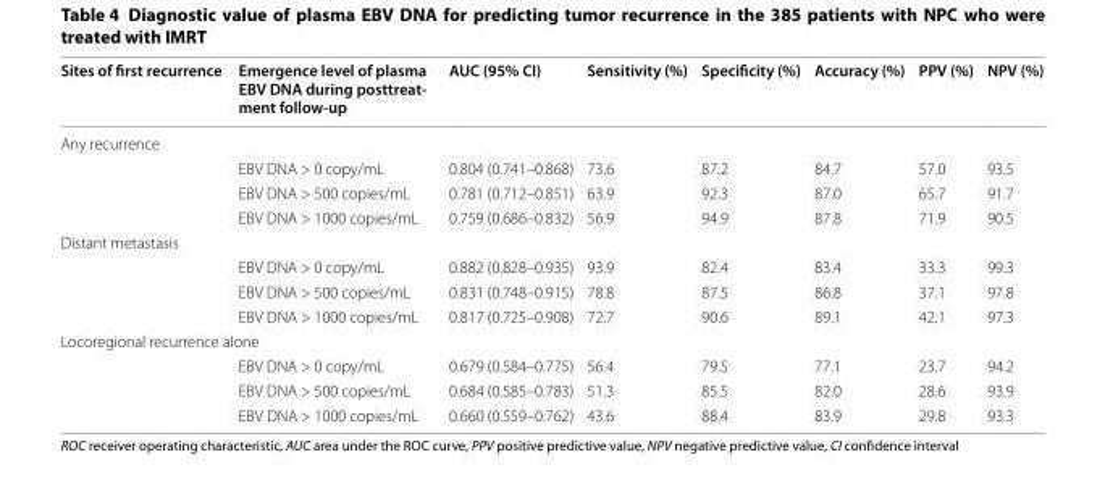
<table><thead><tr><td>Sites of first recurrence</td><td>Emergence level of plasma EBV DNA during posttreat‑ ment follow‑up</td><td>AUC (95% CI)</td><td>Sensitivity (%)</td><td>Specificity (%)</td><td>Accuracy (%)</td><td>PPV (%)</td><td>NPV (%)</td></tr></thead><tbody><tr><td colspan="8">Any recurrence</td></tr><tr><td></td><td>EBV DNA &gt; 0 copy/mL</td><td>0.804 (0.741–0.868)</td><td>73.6</td><td>87.2</td><td>84.7</td><td>57.0</td><td>93.5</td></tr><tr><td></td><td>EBV DNA &gt; 500 copies/mL</td><td>0.781 (0.712–0.851)</td><td>63.9</td><td>92.3</td><td>87.0</td><td>65.7</td><td>91.7</td></tr><tr><td></td><td>EBV DNA &gt; 1000 copies/mL</td><td>0.759 (0.686–0.832)</td><td>56.9</td><td>94.9</td><td>87.8</td><td>71.9</td><td>90.5</td></tr><tr><td colspan="8">Distant metastasis</td></tr><tr><td></td><td>EBV DNA &gt; 0 copy/mL</td><td>0.882 (0.828–0.935)</td><td>93.9</td><td>82.4</td><td>83.4</td><td>33.3</td><td>99.3</td></tr><tr><td></td><td>EBV DNA &gt; 500 copies/mL</td><td>0.831 (0.748–0.915)</td><td>78.8</td><td>87.5</td><td>86.8</td><td>37.1</td><td>97.8</td></tr><tr><td></td><td>EBV DNA &gt; 1000 copies/mL</td><td>0.817 (0.725–0.908)</td><td>72.7</td><td>90.6</td><td>89.1</td><td>42.1</td><td>97.3</td></tr><tr><td colspan="8">Locoregional recurrence alone</td></tr><tr><td></td><td>EBV DNA &gt; 0 copy/mL</td><td>0.679 (0.584–0.775)</td><td>56.4</td><td>79.5</td><td>77.1</td><td>23.7</td><td>94.2</td></tr><tr><td></td><td>EBV DNA &gt; 500 copies/mL</td><td>0.684 (0.585–0.783)</td><td>51.3</td><td>85.5</td><td>82.0</td><td>28.6</td><td>93.9</td></tr><tr><td></td><td>EBV DNA &gt; 1000 copies/mL</td><td>0.660 (0.559–0.762)</td><td>43.6</td><td>88.4</td><td>83.9</td><td>29.8</td><td>93.3</td></tr></tbody></table>